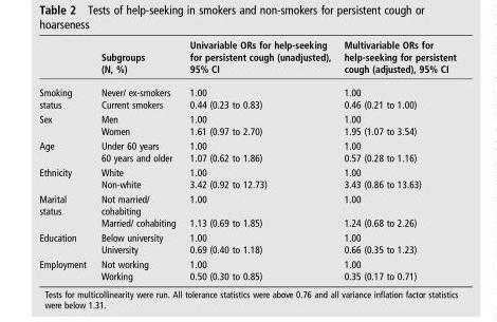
<table><thead><tr><td></td><td>Subgroups (N, %)</td><td>Univariable ORs for help-seeking for persistent cough (unadjusted), 95% CI</td><td>Multivariable ORs for help-seeking for persistent cough (adjusted), 95% CI</td></tr></thead><tbody><tr><td rowspan="2">Smoking status</td><td>Never/ ex-smokers</td><td>1.00</td><td>1.00</td></tr><tr><td>Current smokers</td><td>0.44 (0.23 to 0.83)</td><td>0.46 (0.21 to 1.00)</td></tr><tr><td rowspan="2">Sex</td><td>Men</td><td>1.00</td><td>1.00</td></tr><tr><td>Women</td><td>1.61 (0.97 to 2.70)</td><td>1.95 (1.07 to 3.54)</td></tr><tr><td rowspan="2">Age</td><td>Under 60 years</td><td>1.00</td><td>1.00</td></tr><tr><td>60 years and older</td><td>1.07 (0.62 to 1.86)</td><td>0.57 (0.28 to 1.16)</td></tr><tr><td rowspan="2">Ethnicity</td><td>White</td><td>1.00</td><td>1.00</td></tr><tr><td>Non-white</td><td>3.42 (0.92 to 12.73)</td><td>3.43 (0.86 to 13.63)</td></tr><tr><td rowspan="2">Marital status</td><td>Not married/ cohabiting</td><td>1.00</td><td>1.00</td></tr><tr><td>Married/ cohabiting</td><td>1.13 (0.69 to 1.85)</td><td>1.24 (0.68 to 2.26)</td></tr><tr><td rowspan="2">Education</td><td>Below university</td><td>1.00</td><td>1.00</td></tr><tr><td>University</td><td>0.69 (0.40 to 1.18)</td><td>0.66 (0.35 to 1.23)</td></tr><tr><td rowspan="2">Employment</td><td>Not working</td><td>1.00</td><td>1.00</td></tr><tr><td>Working</td><td>0.50 (0.30 to 0.85)</td><td>0.35 (0.17 to 0.71)</td></tr></tbody></table>